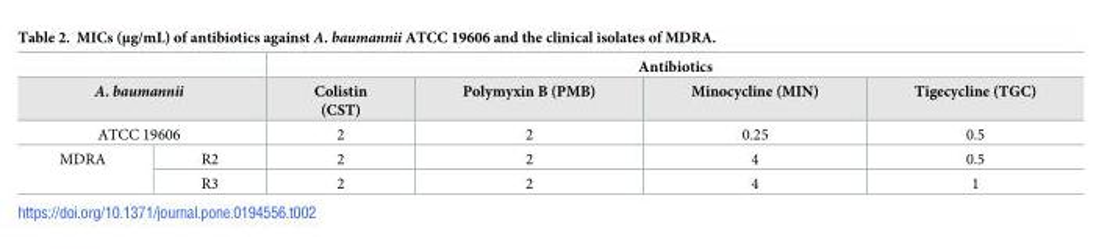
<table><thead><tr><td></td><td></td><td colspan="4">Antibiotics</td></tr><tr><td colspan="2">A. baumannii</td><td>Colistin (CST)</td><td>Polymyxin B (PMB)</td><td>Minocycline (MIN)</td><td>Tigecycline (TGC)</td></tr></thead><tbody><tr><td colspan="2">ATCC 19606</td><td>2</td><td>2</td><td>0.25</td><td>0.5</td></tr><tr><td rowspan="2">MDRA</td><td>R2</td><td>2</td><td>2</td><td>4</td><td>0.5</td></tr><tr><td>R3</td><td>2</td><td>2</td><td>4</td><td>1</td></tr></tbody></table>